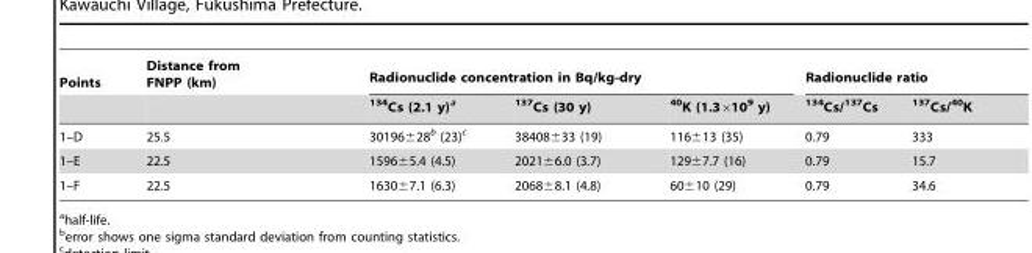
<table><thead><tr><td rowspan="2">Points</td><td rowspan="2">Distance from FNPP (km)</td><td colspan="3">Radionuclide concentration in Bq/kg-dry</td><td colspan="2">Radionuclide ratio</td></tr><tr><td><sup>134</sup>Cs (2.1 y)<sup>a</sup></td><td><sup>137</sup>Cs (30 y)</td><td><sup>40</sup>K (1.3×10<sup>9</sup> y)</td><td><sup>134</sup>Cs/<sup>137</sup>Cs</td><td><sup>137</sup>Cs/<sup>40</sup>K</td></tr></thead><tbody><tr><td>1–D</td><td>25.5</td><td>30196±28<sup>b</sup> (23)<sup>c</sup></td><td>38408±33 (19)</td><td>116±13 (35)</td><td>0.79</td><td>333</td></tr><tr><td>1–E</td><td>22.5</td><td>1596±5.4 (4.5)</td><td>2021±6.0 (3.7)</td><td>129±7.7 (16)</td><td>0.79</td><td>15.7</td></tr><tr><td>1–F</td><td>22.5</td><td>1630±7.1 (6.3)</td><td>2068±8.1 (4.8)</td><td>60±10 (29)</td><td>0.79</td><td>34.6</td></tr></tbody></table>